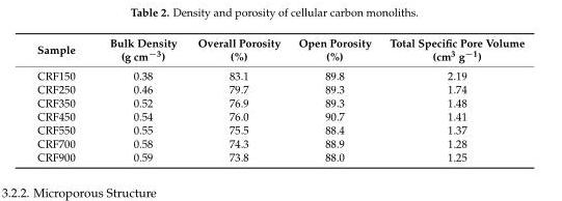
<table><thead><tr><td>Sample</td><td>Bulk Density (g cm<sup>−3</sup>)</td><td>Overall Porosity (%)</td><td>Open Porosity (%)</td><td>Total Specific Pore Volume (cm<sup>3</sup> g<sup>−1</sup>)</td></tr></thead><tbody><tr><td>CRF150</td><td>0.38</td><td>83.1</td><td>89.8</td><td>2.19</td></tr><tr><td>CRF250</td><td>0.46</td><td>79.7</td><td>89.3</td><td>1.74</td></tr><tr><td>CRF350</td><td>0.52</td><td>76.9</td><td>89.3</td><td>1.48</td></tr><tr><td>CRF450</td><td>0.54</td><td>76.0</td><td>90.7</td><td>1.41</td></tr><tr><td>CRF550</td><td>0.55</td><td>75.5</td><td>88.4</td><td>1.37</td></tr><tr><td>CRF700</td><td>0.58</td><td>74.3</td><td>88.9</td><td>1.28</td></tr><tr><td>CRF900</td><td>0.59</td><td>73.8</td><td>88.0</td><td>1.25</td></tr></tbody></table>